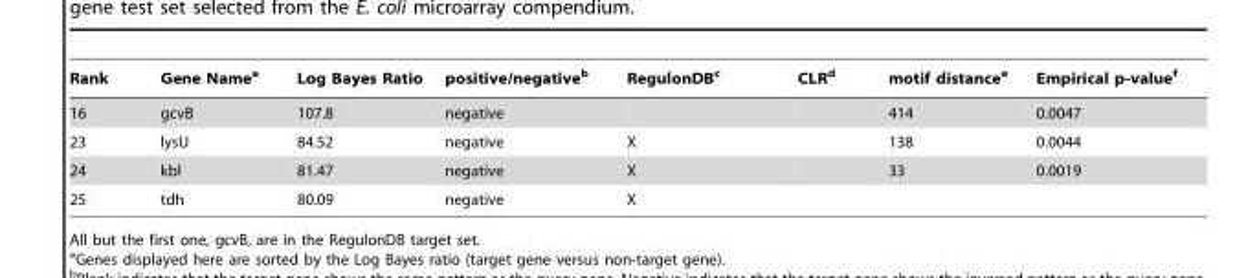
<table><thead><tr><td>Rank</td><td>Gene Name<sup>a</sup></td><td>Log Bayes Ratio</td><td>positive/negative<sup>b</sup></td><td>RegulonDB<sup>c</sup></td><td>CLR<sup>d</sup></td><td>motif distance<sup>e</sup></td><td>Empirical p-value<sup>f</sup></td></tr></thead><tbody><tr><td>16</td><td>gcvB</td><td>107.8</td><td>negative</td><td></td><td></td><td>414</td><td>0.0047</td></tr><tr><td>23</td><td>lysU</td><td>84.52</td><td>negative</td><td>X</td><td></td><td>138</td><td>0.0044</td></tr><tr><td>24</td><td>kbl</td><td>81.47</td><td>negative</td><td>X</td><td></td><td>33</td><td>0.0019</td></tr><tr><td>25</td><td>tdh</td><td>80.09</td><td>negative</td><td>X</td><td></td><td></td><td></td></tr></tbody></table>